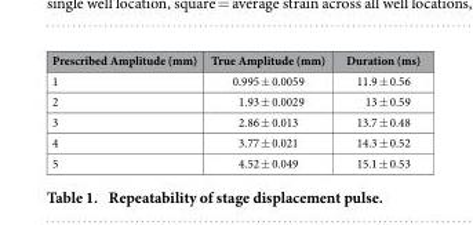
<table><thead><tr><td>Prescribed Amplitude (mm)</td><td>True Amplitude (mm)</td><td>Duration (ms)</td></tr></thead><tbody><tr><td>1</td><td>0.995 ± 0.0059</td><td>11.9 ± 0.56</td></tr><tr><td>2</td><td>1.93 ± 0.0029</td><td>13 ± 0.59</td></tr><tr><td>3</td><td>2.86 ± 0.013</td><td>13.7 ± 0.48</td></tr><tr><td>4</td><td>3.77 ± 0.021</td><td>14.3 ± 0.52</td></tr><tr><td>5</td><td>4.52 ± 0.049</td><td>15.1 ± 0.53</td></tr></tbody></table>